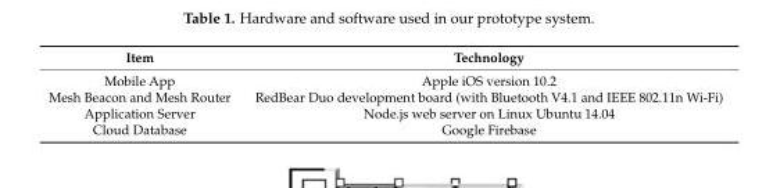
<table><thead><tr><td>Item</td><td>Technology</td></tr></thead><tbody><tr><td>Mobile App</td><td>Apple iOS version 10.2</td></tr><tr><td>Mesh Beacon and Mesh Router</td><td>RedBear Duo development board (with Bluetooth V4.1 and IEEE 802.11n Wi-Fi)</td></tr><tr><td>Application Server</td><td>Node.js web server on Linux Ubuntu 14.04</td></tr><tr><td>Cloud Database</td><td>Google Firebase</td></tr></tbody></table>